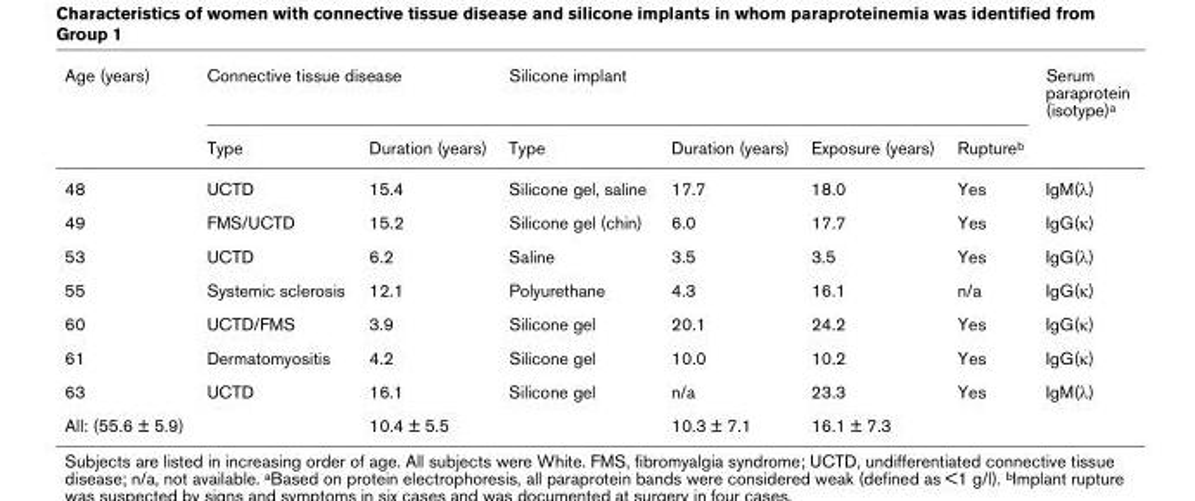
<table><thead><tr><td rowspan="2">Age (years)</td><td colspan="2">Connective tissue disease</td><td colspan="4">Silicone implant</td><td rowspan="2">Serum paraprotein (isotype)<sup>a</sup></td></tr><tr><td>Type</td><td>Duration (years)</td><td>Type</td><td>Duration (years)</td><td>Exposure (years)</td><td>Rupture<sup>b</sup></td></tr></thead><tbody><tr><td>48</td><td>UCTD</td><td>15.4</td><td>Silicone gel, saline</td><td>17.7</td><td>18.0</td><td>Yes</td><td>IgM(λ)</td></tr><tr><td>49</td><td>FMS/UCTD</td><td>15.2</td><td>Silicone gel (chin)</td><td>6.0</td><td>17.7</td><td>Yes</td><td>IgG(κ)</td></tr><tr><td>53</td><td>UCTD</td><td>6.2</td><td>Saline</td><td>3.5</td><td>3.5</td><td>Yes</td><td>IgG(λ)</td></tr><tr><td>55</td><td>Systemic sclerosis</td><td>12.1</td><td>Polyurethane</td><td>4.3</td><td>16.1</td><td>n/a</td><td>IgG(κ)</td></tr><tr><td>60</td><td>UCTD/FMS</td><td>3.9</td><td>Silicone gel</td><td>20.1</td><td>24.2</td><td>Yes</td><td>IgG(κ)</td></tr><tr><td>61</td><td>Dermatomyositis</td><td>4.2</td><td>Silicone gel</td><td>10.0</td><td>10.2</td><td>Yes</td><td>IgG(κ)</td></tr><tr><td>63</td><td>UCTD</td><td>16.1</td><td>Silicone gel</td><td>n/a</td><td>23.3</td><td>Yes</td><td>IgM(λ)</td></tr><tr><td>All: (55.6 ± 5.9)</td><td></td><td>10.4 ± 5.5</td><td></td><td>10.3 ± 7.1</td><td>16.1 ± 7.3</td><td></td><td></td></tr></tbody></table>